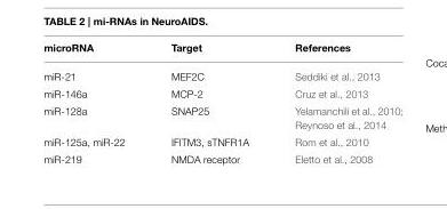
<table><thead><tr><td>microRNA</td><td>Target</td><td>References</td></tr></thead><tbody><tr><td>miR-21</td><td>MEF2C</td><td>Seddiki et al., 2013</td></tr><tr><td>miR-146a</td><td>MCP-2</td><td>Cruz et al., 2013</td></tr><tr><td>miR-128a</td><td>SNAP25</td><td>Yelamanchili et al., 2010; Reynoso et al., 2014</td></tr><tr><td>miR-125a, miR-22</td><td>IFITM3, sTNFR1A</td><td>Rom et al., 2010</td></tr><tr><td>miR-219</td><td>NMDA receptor</td><td>Eletto et al., 2008</td></tr></tbody></table>